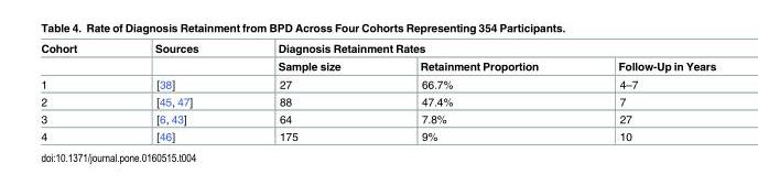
<table><thead><tr><td rowspan="2">Cohort</td><td rowspan="2">Sources</td><td colspan="3">Diagnosis Retainment Rates</td></tr><tr><td>Sample size</td><td>Retainment Proportion</td><td>Follow-Up in Years</td></tr></thead><tbody><tr><td>1</td><td>[38]</td><td>27</td><td>66.7%</td><td>4–7</td></tr><tr><td>2</td><td>[45, 47]</td><td>88</td><td>47.4%</td><td>7</td></tr><tr><td>3</td><td>[6, 43]</td><td>64</td><td>7.8%</td><td>27</td></tr><tr><td>4</td><td>[46]</td><td>175</td><td>9%</td><td>10</td></tr></tbody></table>